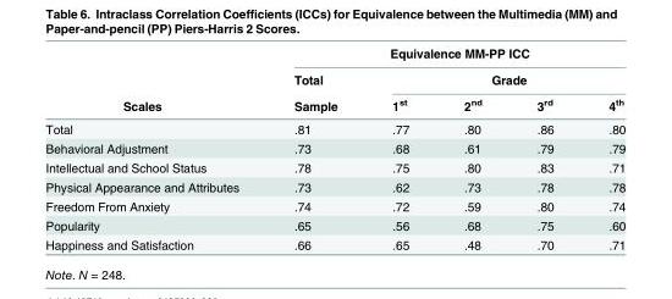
<table><thead><tr><td rowspan="3">Scales</td><td colspan="5">Equivalence MM-PP ICC</td></tr><tr><td rowspan="2">Total Sample</td><td colspan="4">Grade</td></tr><tr><td>1<sup>st</sup></td><td>2<sup>nd</sup></td><td>3<sup>rd</sup></td><td>4<sup>th</sup></td></tr></thead><tbody><tr><td>Total</td><td>.81</td><td>.77</td><td>.80</td><td>.86</td><td>.80</td></tr><tr><td>Behavioral Adjustment</td><td>.73</td><td>.68</td><td>.61</td><td>.79</td><td>.79</td></tr><tr><td>Intellectual and School Status</td><td>.78</td><td>.75</td><td>.80</td><td>.83</td><td>.71</td></tr><tr><td>Physical Appearance and Attributes</td><td>.73</td><td>.62</td><td>.73</td><td>.78</td><td>.78</td></tr><tr><td>Freedom From Anxiety</td><td>.74</td><td>.72</td><td>.59</td><td>.80</td><td>.74</td></tr><tr><td>Popularity</td><td>.65</td><td>.56</td><td>.68</td><td>.75</td><td>.60</td></tr><tr><td>Happiness and Satisfaction</td><td>.66</td><td>.65</td><td>.48</td><td>.70</td><td>.71</td></tr></tbody></table>